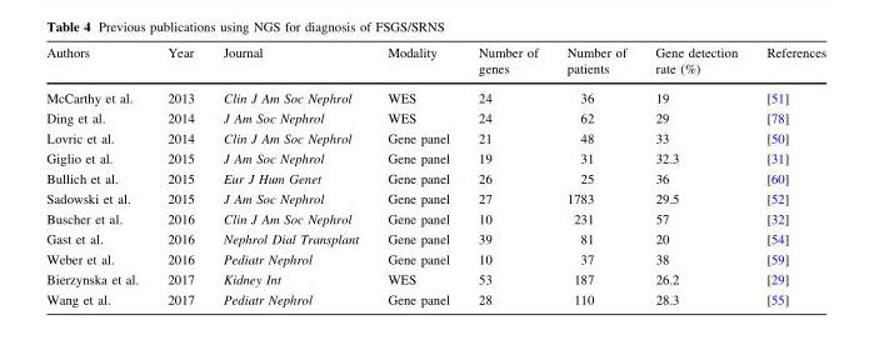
<table><thead><tr><td>Authors</td><td>Year</td><td>Journal</td><td>Modality</td><td>Number of genes</td><td>Number of patients</td><td>Gene detection rate (%)</td><td>References</td></tr></thead><tbody><tr><td>McCarthy et al.</td><td>2013</td><td>Clin J Am Soc Nephrol</td><td>WES</td><td>24</td><td>36</td><td>19</td><td>[51]</td></tr><tr><td>Ding et al.</td><td>2014</td><td>J Am Soc Nephrol</td><td>WES</td><td>24</td><td>62</td><td>29</td><td>[78]</td></tr><tr><td>Lovric et al.</td><td>2014</td><td>Clin J Am Soc Nephrol</td><td>Gene panel</td><td>21</td><td>48</td><td>33</td><td>[50]</td></tr><tr><td>Giglio et al.</td><td>2015</td><td>J Am Soc Nephrol</td><td>Gene panel</td><td>19</td><td>31</td><td>32.3</td><td>[31]</td></tr><tr><td>Bullich et al.</td><td>2015</td><td>Eur J Hum Genet</td><td>Gene panel</td><td>26</td><td>25</td><td>36</td><td>[60]</td></tr><tr><td>Sadowski et al.</td><td>2015</td><td>J Am Soc Nephrol</td><td>Gene panel</td><td>27</td><td>1783</td><td>29.5</td><td>[52]</td></tr><tr><td>Buscher et al.</td><td>2016</td><td>Clin J Am Soc Nephrol</td><td>Gene panel</td><td>10</td><td>231</td><td>57</td><td>[32]</td></tr><tr><td>Gast et al.</td><td>2016</td><td>Nephrol Dial Transplant</td><td>Gene panel</td><td>39</td><td>81</td><td>20</td><td>[54]</td></tr><tr><td>Weber et al.</td><td>2016</td><td>Pediatr Nephrol</td><td>Gene panel</td><td>10</td><td>37</td><td>38</td><td>[59]</td></tr><tr><td>Bierzynska et al.</td><td>2017</td><td>Kidney Int</td><td>WES</td><td>53</td><td>187</td><td>26.2</td><td>[29]</td></tr><tr><td>Wang et al.</td><td>2017</td><td>Pediatr Nephrol</td><td>Gene panel</td><td>28</td><td>110</td><td>28.3</td><td>[55]</td></tr></tbody></table>